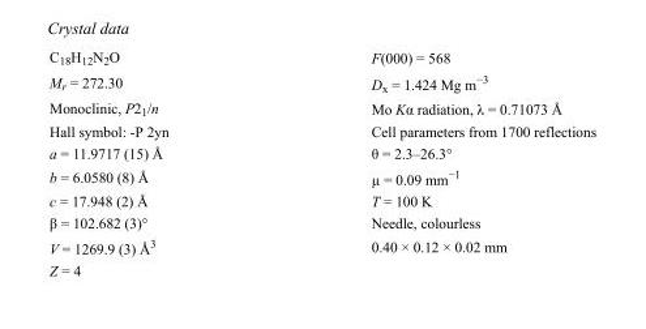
<table><tbody><tr><td>C<sub>18</sub>H<sub>12</sub>N<sub>2</sub>O</td><td>F(000) = 568</td></tr><tr><td>M<sub>r</sub> = 272.30</td><td>D<sub>x</sub> = 1.424 Mg m<sup>−3</sup></td></tr><tr><td>Monoclinic, P2<sub>1</sub>/n</td><td>Mo Kα radiation, λ = 0.71073 Å</td></tr><tr><td>Hall symbol: -P 2yn</td><td>Cell parameters from 1700 reflections</td></tr><tr><td>a = 11.9717 (15) Å</td><td>θ = 2.3–26.3°</td></tr><tr><td>b = 6.0580 (8) Å</td><td>µ = 0.09 mm<sup>−1</sup></td></tr><tr><td>c = 17.948 (2) Å</td><td>T = 100 K</td></tr><tr><td>β = 102.682 (3)°</td><td>Needle, colourless</td></tr><tr><td>V = 1269.9 (3) Å<sup>3</sup></td><td>0.40 × 0.12 × 0.02 mm</td></tr><tr><td>Z = 4</td><td></td></tr></tbody></table>